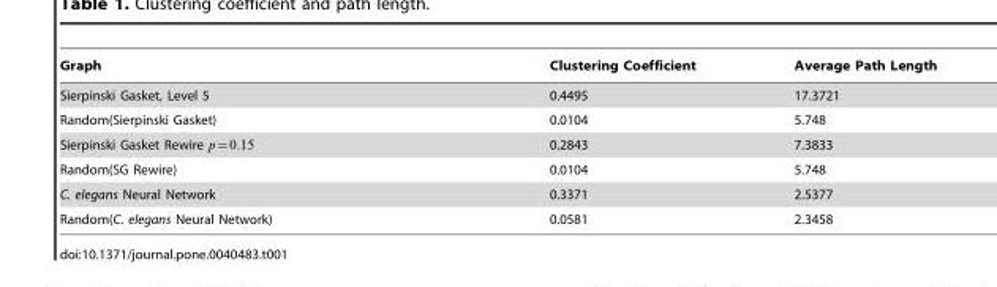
<table><thead><tr><td>Graph</td><td>Clustering Coefficient</td><td>Average Path Length</td></tr></thead><tbody><tr><td>Sierpinski Gasket, Level 5</td><td>0.4495</td><td>17.3721</td></tr><tr><td>Random(Sierpinski Gasket)</td><td>0.0104</td><td>5.748</td></tr><tr><td>Sierpinski Gasket Rewire p~0:15</td><td>0.2843</td><td>7.3833</td></tr><tr><td>Random(SG Rewire)</td><td>0.0104</td><td>5.748</td></tr><tr><td>C. elegans Neural Network</td><td>0.3371</td><td>2.5377</td></tr><tr><td>Random(C. elegans Neural Network)</td><td>0.0581</td><td>2.3458</td></tr></tbody></table>